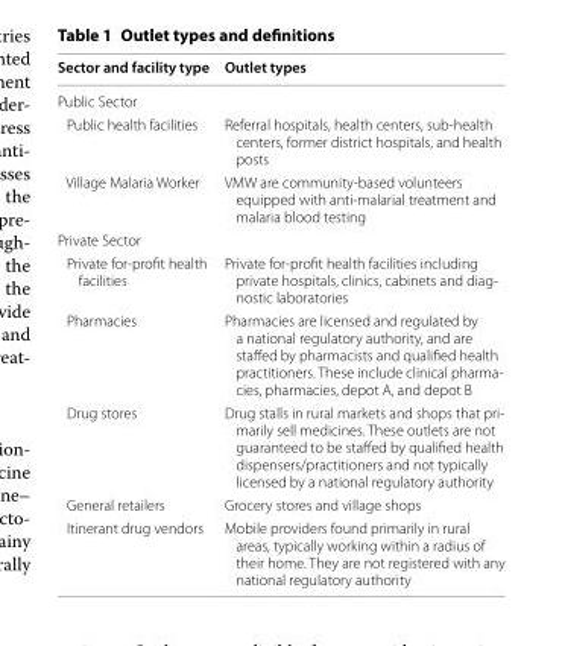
<table><thead><tr><td>Sector and facility type</td><td>Outlet types</td></tr></thead><tbody><tr><td colspan="2">Public Sector</td></tr><tr><td>Public health facilities</td><td>Referral hospitals, health centers, sub-health centers, former district hospitals, and health posts</td></tr><tr><td>Village Malaria Worker</td><td>VMW are community-based volunteers equipped with anti-malarial treatment and malaria blood testing</td></tr><tr><td colspan="2">Private Sector</td></tr><tr><td>Private for-profit health facilities</td><td>Private for-profit health facilities including private hospitals, clinics, cabinets and diag- nostic laboratories</td></tr><tr><td>Pharmacies</td><td>Pharmacies are licensed and regulated by a national regulatory authority, and are staffed by pharmacists and qualified health practitioners. These include clinical pharma- cies, pharmacies, depot A, and depot B</td></tr><tr><td>Drug stores</td><td>Drug stalls in rural markets and shops that pri- marily sell medicines. These outlets are not guaranteed to be staffed by qualified health dispensers/practitioners and not typically licensed by a national regulatory authority</td></tr><tr><td>General retailers</td><td>Grocery stores and village shops</td></tr><tr><td>Itinerant drug vendors</td><td>Mobile providers found primarily in rural areas, typically working within a radius of their home. They are not registered with any national regulatory authority</td></tr></tbody></table>